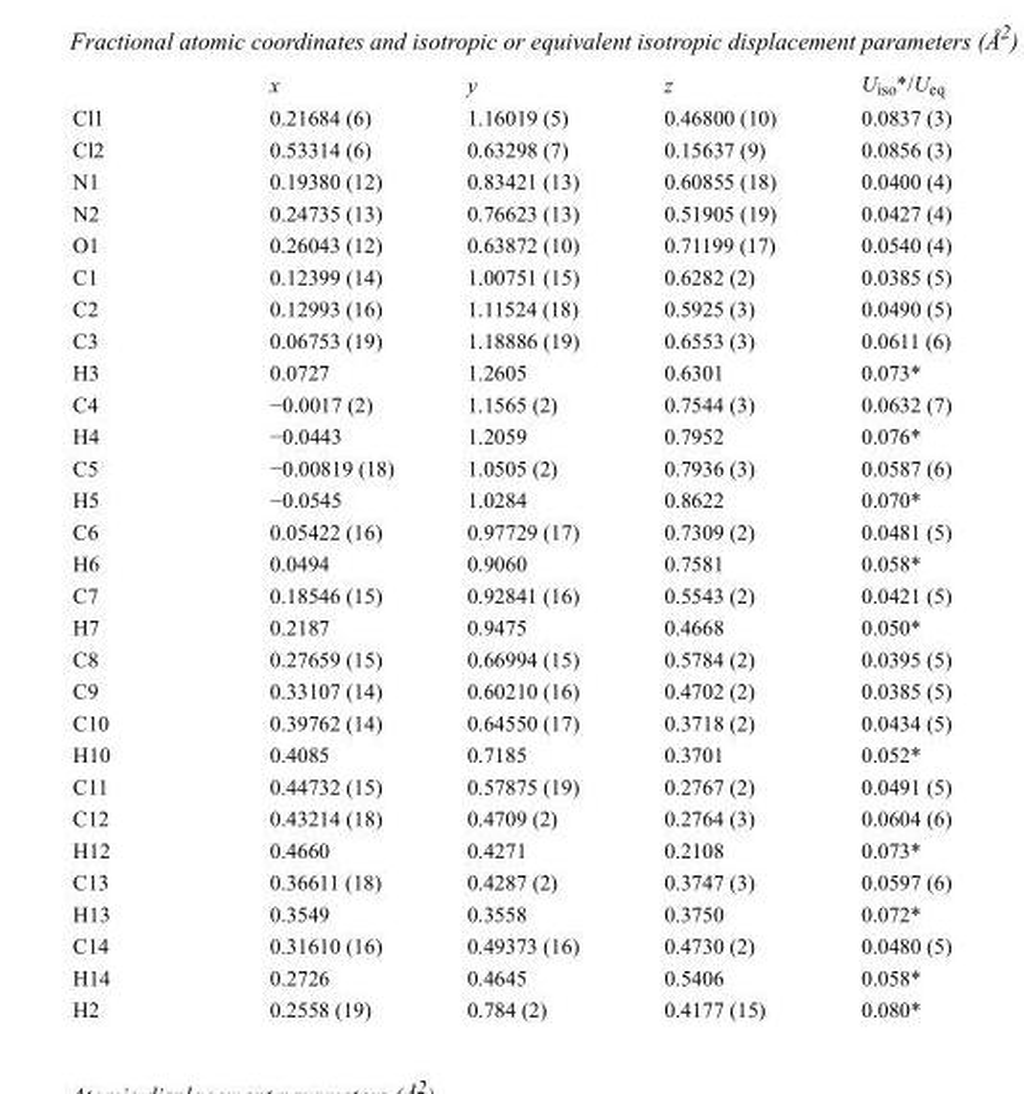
<table><thead><tr><td></td><td>x</td><td>y</td><td>z</td><td>U<sub>iso</sub>*/U<sub>eq</sub></td></tr></thead><tbody><tr><td>Cl1</td><td>0.21684 (6)</td><td>1.16019 (5)</td><td>0.46800 (10)</td><td>0.0837 (3)</td></tr><tr><td>Cl2</td><td>0.53314 (6)</td><td>0.63298 (7)</td><td>0.15637 (9)</td><td>0.0856 (3)</td></tr><tr><td>N1</td><td>0.19380 (12)</td><td>0.83421 (13)</td><td>0.60855 (18)</td><td>0.0400 (4)</td></tr><tr><td>N2</td><td>0.24735 (13)</td><td>0.76623 (13)</td><td>0.51905 (19)</td><td>0.0427 (4)</td></tr><tr><td>O1</td><td>0.26043 (12)</td><td>0.63872 (10)</td><td>0.71199 (17)</td><td>0.0540 (4)</td></tr><tr><td>C1</td><td>0.12399 (14)</td><td>1.00751 (15)</td><td>0.6282 (2)</td><td>0.0385 (5)</td></tr><tr><td>C2</td><td>0.12993 (16)</td><td>1.11524 (18)</td><td>0.5925 (3)</td><td>0.0490 (5)</td></tr><tr><td>C3</td><td>0.06753 (19)</td><td>1.18886 (19)</td><td>0.6553 (3)</td><td>0.0611 (6)</td></tr><tr><td>H3</td><td>0.0727</td><td>1.2605</td><td>0.6301</td><td>0.073*</td></tr><tr><td>C4</td><td>−0.0017 (2)</td><td>1.1565 (2)</td><td>0.7544 (3)</td><td>0.0632 (7)</td></tr><tr><td>H4</td><td>−0.0443</td><td>1.2059</td><td>0.7952</td><td>0.076*</td></tr><tr><td>C5</td><td>−0.00819 (18)</td><td>1.0505 (2)</td><td>0.7936 (3)</td><td>0.0587 (6)</td></tr><tr><td>H5</td><td>−0.0545</td><td>1.0284</td><td>0.8622</td><td>0.070*</td></tr><tr><td>C6</td><td>0.05422 (16)</td><td>0.97729 (17)</td><td>0.7309 (2)</td><td>0.0481 (5)</td></tr><tr><td>H6</td><td>0.0494</td><td>0.9060</td><td>0.7581</td><td>0.058*</td></tr><tr><td>C7</td><td>0.18546 (15)</td><td>0.92841 (16)</td><td>0.5543 (2)</td><td>0.0421 (5)</td></tr><tr><td>H7</td><td>0.2187</td><td>0.9475</td><td>0.4668</td><td>0.050*</td></tr><tr><td>C8</td><td>0.27659 (15)</td><td>0.66994 (15)</td><td>0.5784 (2)</td><td>0.0395 (5)</td></tr><tr><td>C9</td><td>0.33107 (14)</td><td>0.60210 (16)</td><td>0.4702 (2)</td><td>0.0385 (5)</td></tr><tr><td>C10</td><td>0.39762 (14)</td><td>0.64550 (17)</td><td>0.3718 (2)</td><td>0.0434 (5)</td></tr><tr><td>H10</td><td>0.4085</td><td>0.7185</td><td>0.3701</td><td>0.052*</td></tr><tr><td>C11</td><td>0.44732 (15)</td><td>0.57875 (19)</td><td>0.2767 (2)</td><td>0.0491 (5)</td></tr><tr><td>C12</td><td>0.43214 (18)</td><td>0.4709 (2)</td><td>0.2764 (3)</td><td>0.0604 (6)</td></tr><tr><td>H12</td><td>0.4660</td><td>0.4271</td><td>0.2108</td><td>0.073*</td></tr><tr><td>C13</td><td>0.36611 (18)</td><td>0.4287 (2)</td><td>0.3747 (3)</td><td>0.0597 (6)</td></tr><tr><td>H13</td><td>0.3549</td><td>0.3558</td><td>0.3750</td><td>0.072*</td></tr><tr><td>C14</td><td>0.31610 (16)</td><td>0.49373 (16)</td><td>0.4730 (2)</td><td>0.0480 (5)</td></tr><tr><td>H14</td><td>0.2726</td><td>0.4645</td><td>0.5406</td><td>0.058*</td></tr><tr><td>H2</td><td>0.2558 (19)</td><td>0.784 (2)</td><td>0.4177 (15)</td><td>0.080*</td></tr></tbody></table>